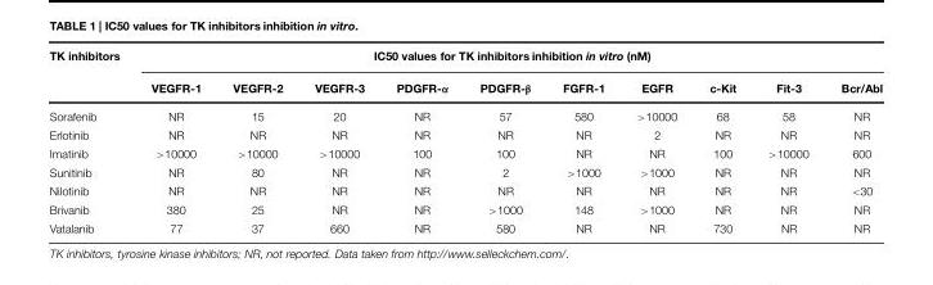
<table><thead><tr><td rowspan="2">TK inhibitors</td><td colspan="10">IC50 values for TK inhibitors inhibition in vitro (nM)</td></tr><tr><td>VEGFR-1</td><td>VEGFR-2</td><td>VEGFR-3</td><td>PDGFR-α</td><td>PDGFR-β</td><td>FGFR-1</td><td>EGFR</td><td>c-Kit</td><td>Fit-3</td><td>Bcr/Abl</td></tr></thead><tbody><tr><td>Sorafenib</td><td>NR</td><td>15</td><td>20</td><td>NR</td><td>57</td><td>580</td><td>&gt;10000</td><td>68</td><td>58</td><td>NR</td></tr><tr><td>Erlotinib</td><td>NR</td><td>NR</td><td>NR</td><td>NR</td><td>NR</td><td>NR</td><td>2</td><td>NR</td><td>NR</td><td>NR</td></tr><tr><td>Imatinib</td><td>&gt;10000</td><td>&gt;10000</td><td>&gt;10000</td><td>100</td><td>100</td><td>NR</td><td>NR</td><td>100</td><td>&gt;10000</td><td>600</td></tr><tr><td>Sunitinib</td><td>NR</td><td>80</td><td>NR</td><td>NR</td><td>2</td><td>&gt;1000</td><td>&gt;1000</td><td>NR</td><td>NR</td><td>NR</td></tr><tr><td>Nilotinib</td><td>NR</td><td>NR</td><td>NR</td><td>NR</td><td>NR</td><td>NR</td><td>NR</td><td>NR</td><td>NR</td><td>&lt;30</td></tr><tr><td>Brivanib</td><td>380</td><td>25</td><td>NR</td><td>NR</td><td>&gt;1000</td><td>148</td><td>&gt;1000</td><td>NR</td><td>NR</td><td>NR</td></tr><tr><td>Vatalanib</td><td>77</td><td>37</td><td>660</td><td>NR</td><td>580</td><td>NR</td><td>NR</td><td>730</td><td>NR</td><td>NR</td></tr></tbody></table>